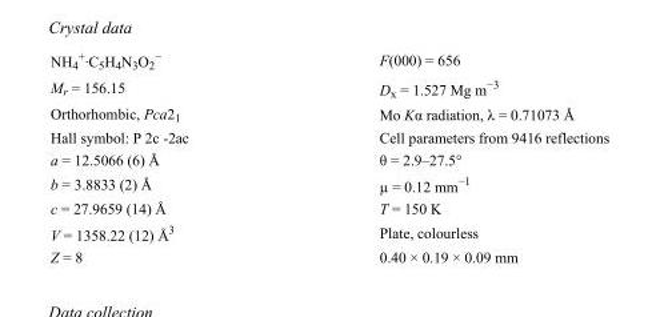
<table><tbody><tr><td>NH<sub>4</sub> <sup>+</sup>·C<sub>5</sub>H<sub>4</sub>N<sub>3</sub>O<sub>2</sub> <sup>−</sup></td><td>F(000) = 656</td></tr><tr><td>M<sub>r</sub> = 156.15</td><td>D<sub>x</sub> = 1.527 Mg m<sup>−3</sup></td></tr><tr><td>Orthorhombic, Pca2<sub>1</sub></td><td>Mo Kα radiation, λ = 0.71073 Å</td></tr><tr><td>Hall symbol: P 2c -2ac</td><td>Cell parameters from 9416 reflections</td></tr><tr><td>a = 12.5066 (6) Å</td><td>θ = 2.9–27.5°</td></tr><tr><td>b = 3.8833 (2) Å</td><td>µ = 0.12 mm<sup>−1</sup></td></tr><tr><td>c = 27.9659 (14) Å</td><td>T = 150 K</td></tr><tr><td>V = 1358.22 (12) Å<sup>3</sup></td><td>Plate, colourless</td></tr><tr><td>Z = 8</td><td>0.40 × 0.19 × 0.09 mm</td></tr></tbody></table>